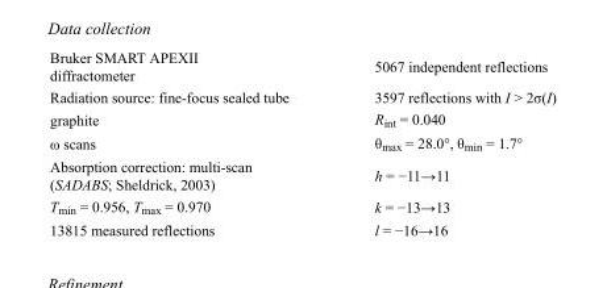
<table><tbody><tr><td>Bruker SMART APEXII diffractometer</td><td>5067 independent reflections</td></tr><tr><td>Radiation source: fine-focus sealed tube</td><td>3597 reflections with I &gt; 2σ(I)</td></tr><tr><td>graphite</td><td>R<sub>int</sub> = 0.040</td></tr><tr><td>ω scans</td><td>θ<sub>max</sub> = 28.0°, θ<sub>min</sub> = 1.7°</td></tr><tr><td>Absorption correction: multi-scan (SADABS; Sheldrick, 2003)</td><td>h = −11→11</td></tr><tr><td>T<sub>min</sub> = 0.956, T<sub>max</sub> = 0.970</td><td>k = −13→13</td></tr><tr><td>13815 measured reflections</td><td>l = −16→16</td></tr></tbody></table>